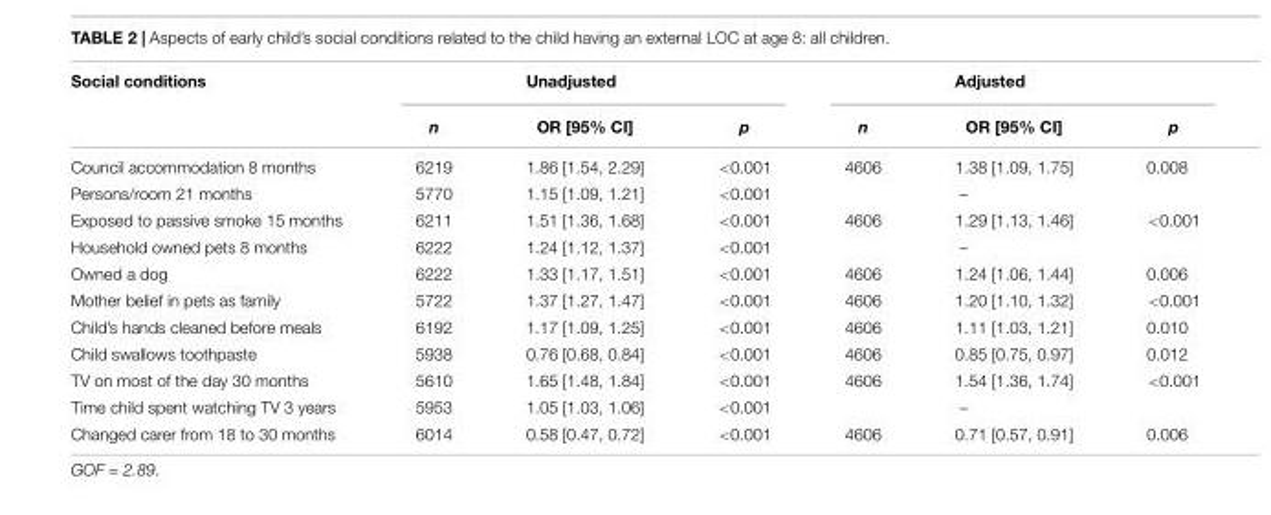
<table><thead><tr><td rowspan="2">Social conditions</td><td colspan="3">Unadjusted</td><td colspan="3">Adjusted</td></tr><tr><td>n</td><td>OR [95% CI]</td><td>p</td><td>n</td><td>OR [95% CI]</td><td>p</td></tr></thead><tbody><tr><td>Council accommodation 8 months</td><td>6219</td><td>1.86 [1.54, 2.29]</td><td>&lt;0.001</td><td>4606</td><td>1.38 [1.09, 1.75]</td><td>0.008</td></tr><tr><td>Persons/room 21 months</td><td>5770</td><td>1.15 [1.09, 1.21]</td><td>&lt;0.001</td><td></td><td>–</td><td></td></tr><tr><td>Exposed to passive smoke 15 months</td><td>6211</td><td>1.51 [1.36, 1.68]</td><td>&lt;0.001</td><td>4606</td><td>1.29 [1.13, 1.46]</td><td>&lt;0.001</td></tr><tr><td>Household owned pets 8 months</td><td>6222</td><td>1.24 [1.12, 1.37]</td><td>&lt;0.001</td><td></td><td>–</td><td></td></tr><tr><td>Owned a dog</td><td>6222</td><td>1.33 [1.17, 1.51]</td><td>&lt;0.001</td><td>4606</td><td>1.24 [1.06, 1.44]</td><td>0.006</td></tr><tr><td>Mother belief in pets as family</td><td>5722</td><td>1.37 [1.27, 1.47]</td><td>&lt;0.001</td><td>4606</td><td>1.20 [1.10, 1.32]</td><td>&lt;0.001</td></tr><tr><td>Child’s hands cleaned before meals</td><td>6192</td><td>1.17 [1.09, 1.25]</td><td>&lt;0.001</td><td>4606</td><td>1.11 [1.03, 1.21]</td><td>0.010</td></tr><tr><td>Child swallows toothpaste</td><td>5938</td><td>0.76 [0.68, 0.84]</td><td>&lt;0.001</td><td>4606</td><td>0.85 [0.75, 0.97]</td><td>0.012</td></tr><tr><td>TV on most of the day 30 months</td><td>5610</td><td>1.65 [1.48, 1.84]</td><td>&lt;0.001</td><td>4606</td><td>1.54 [1.36, 1.74]</td><td>&lt;0.001</td></tr><tr><td>Time child spent watching TV 3 years</td><td>5953</td><td>1.05 [1.03, 1.06]</td><td>&lt;0.001</td><td></td><td>–</td><td></td></tr><tr><td>Changed carer from 18 to 30 months</td><td>6014</td><td>0.58 [0.47, 0.72]</td><td>&lt;0.001</td><td>4606</td><td>0.71 [0.57, 0.91]</td><td>0.006</td></tr></tbody></table>